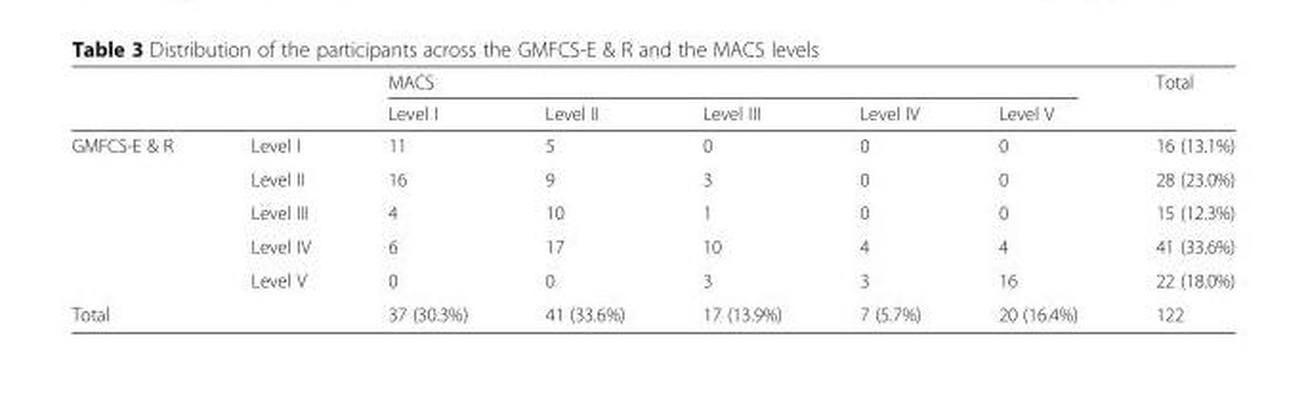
<table><thead><tr><td rowspan="2"></td><td rowspan="2"></td><td colspan="5">MACS</td><td rowspan="2">Total</td></tr><tr><td>Level I</td><td>Level II</td><td>Level III</td><td>Level IV</td><td>Level V</td></tr></thead><tbody><tr><td rowspan="5">GMFCS-E &amp; R</td><td>Level I</td><td>11</td><td>5</td><td>0</td><td>0</td><td>0</td><td>16 (13.1%)</td></tr><tr><td>Level II</td><td>16</td><td>9</td><td>3</td><td>0</td><td>0</td><td>28 (23.0%)</td></tr><tr><td>Level III</td><td>4</td><td>10</td><td>1</td><td>0</td><td>0</td><td>15 (12.3%)</td></tr><tr><td>Level IV</td><td>6</td><td>17</td><td>10</td><td>4</td><td>4</td><td>41 (33.6%)</td></tr><tr><td>Level V</td><td>0</td><td>0</td><td>3</td><td>3</td><td>16</td><td>22 (18.0%)</td></tr><tr><td colspan="2">Total</td><td>37 (30.3%)</td><td>41 (33.6%)</td><td>17 (13.9%)</td><td>7 (5.7%)</td><td>20 (16.4%)</td><td>122</td></tr></tbody></table>